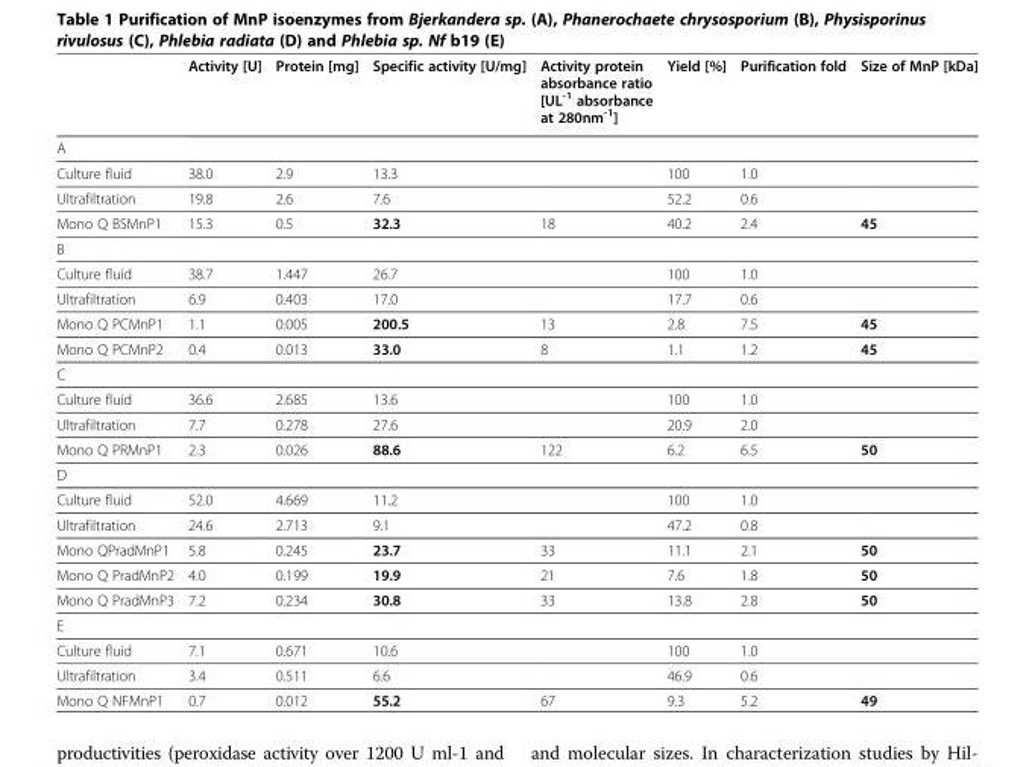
<table><thead><tr><td></td><td>Activity [U]</td><td>Protein [mg]</td><td>Specific activity [U/mg]</td><td>Activity protein absorbance ratio [UL<sup>-1</sup> absorbance at 280nm<sup>-1</sup>]</td><td>Yield [%]</td><td>Purification fold</td><td>Size of MnP [kDa]</td></tr></thead><tbody><tr><td colspan="8">A</td></tr><tr><td>Culture fluid</td><td>38.0</td><td>2.9</td><td>13.3</td><td></td><td>100</td><td>1.0</td><td></td></tr><tr><td>Ultrafiltration</td><td>19.8</td><td>2.6</td><td>7.6</td><td></td><td>52.2</td><td>0.6</td><td></td></tr><tr><td>Mono Q BSMnP1</td><td>15.3</td><td>0.5</td><td>32.3</td><td>18</td><td>40.2</td><td>2.4</td><td>45</td></tr><tr><td colspan="8">B</td></tr><tr><td>Culture fluid</td><td>38.7</td><td>1.447</td><td>26.7</td><td></td><td>100</td><td>1.0</td><td></td></tr><tr><td>Ultrafiltration</td><td>6.9</td><td>0.403</td><td>17.0</td><td></td><td>17.7</td><td>0.6</td><td></td></tr><tr><td>Mono Q PCMnP1</td><td>1.1</td><td>0.005</td><td>200.5</td><td>13</td><td>2.8</td><td>7.5</td><td>45</td></tr><tr><td>Mono Q PCMnP2</td><td>0.4</td><td>0.013</td><td>33.0</td><td>8</td><td>1.1</td><td>1.2</td><td>45</td></tr><tr><td colspan="8">C</td></tr><tr><td>Culture fluid</td><td>36.6</td><td>2.685</td><td>13.6</td><td></td><td>100</td><td>1.0</td><td></td></tr><tr><td>Ultrafiltration</td><td>7.7</td><td>0.278</td><td>27.6</td><td></td><td>20.9</td><td>2.0</td><td></td></tr><tr><td>Mono Q PRMnP1</td><td>2.3</td><td>0.026</td><td>88.6</td><td>122</td><td>6.2</td><td>6.5</td><td>50</td></tr><tr><td colspan="8">D</td></tr><tr><td>Culture fluid</td><td>52.0</td><td>4.669</td><td>11.2</td><td></td><td>100</td><td>1.0</td><td></td></tr><tr><td>Ultrafiltration</td><td>24.6</td><td>2.713</td><td>9.1</td><td></td><td>47.2</td><td>0.8</td><td></td></tr><tr><td>Mono QPradMnP1</td><td>5.8</td><td>0.245</td><td>23.7</td><td>33</td><td>11.1</td><td>2.1</td><td>50</td></tr><tr><td>Mono Q PradMnP2</td><td>4.0</td><td>0.199</td><td>19.9</td><td>21</td><td>7.6</td><td>1.8</td><td>50</td></tr><tr><td>Mono Q PradMnP3</td><td>7.2</td><td>0.234</td><td>30.8</td><td>33</td><td>13.8</td><td>2.8</td><td>50</td></tr><tr><td colspan="8">E</td></tr><tr><td>Culture fluid</td><td>7.1</td><td>0.671</td><td>10.6</td><td></td><td>100</td><td>1.0</td><td></td></tr><tr><td>Ultrafiltration</td><td>3.4</td><td>0.511</td><td>6.6</td><td></td><td>46.9</td><td>0.6</td><td></td></tr><tr><td>Mono Q NFMnP1</td><td>0.7</td><td>0.012</td><td>55.2</td><td>67</td><td>9.3</td><td>5.2</td><td>49</td></tr></tbody></table>